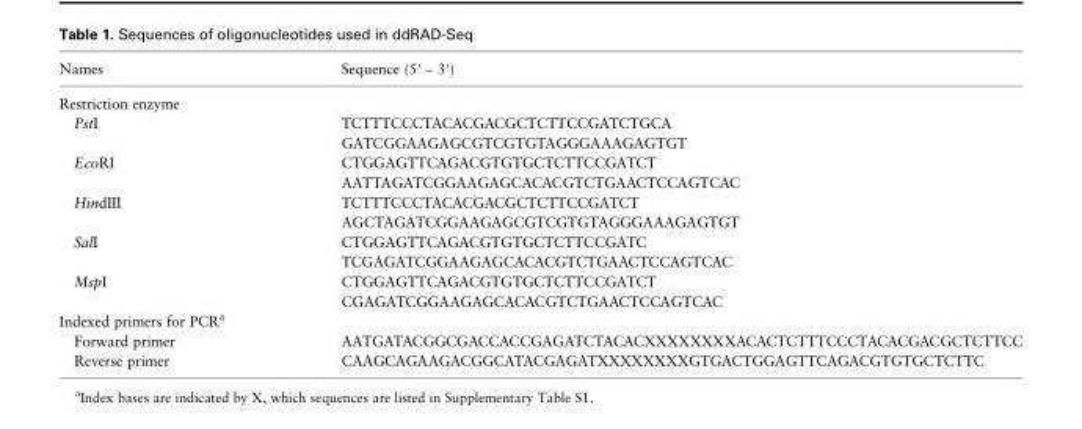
<table><thead><tr><td>Names</td><td>Sequence (5′ – 3′)</td></tr></thead><tbody><tr><td colspan="2">Restriction enzyme</td></tr><tr><td rowspan="2">PstI</td><td>TCTTTCCCTACACGACGCTCTTCCGATCTGCA</td></tr><tr><td>GATCGGAAGAGCGTCGTGTAGGGAAAGAGTGT</td></tr><tr><td rowspan="2">EcoRI</td><td>CTGGAGTTCAGACGTGTGCTCTTCCGATCT</td></tr><tr><td>AATTAGATCGGAAGAGCACACGTCTGAACTCCAGTCAC</td></tr><tr><td rowspan="2">HindIII</td><td>TCTTTCCCTACACGACGCTCTTCCGATCT</td></tr><tr><td>AGCTAGATCGGAAGAGCGTCGTGTAGGGAAAGAGTGT</td></tr><tr><td rowspan="2">SalI</td><td>CTGGAGTTCAGACGTGTGCTCTTCCGATC</td></tr><tr><td>TCGAGATCGGAAGAGCACACGTCTGAACTCCAGTCAC</td></tr><tr><td rowspan="2">MspI</td><td>CTGGAGTTCAGACGTGTGCTCTTCCGATCT</td></tr><tr><td>CGAGATCGGAAGAGCACACGTCTGAACTCCAGTCAC</td></tr><tr><td colspan="2">Indexed primers for PCR<sup>a</sup></td></tr><tr><td>Forward primer</td><td>AATGATACGGCGACCACCGAGATCTACACXXXXXXXXACACTCTTTCCCTACACGACGCTCTTCC</td></tr><tr><td>Reverse primer</td><td>CAAGCAGAAGACGGCATACGAGATXXXXXXXXGTGACTGGAGTTCAGACGTGTGCTCTTC</td></tr></tbody></table>